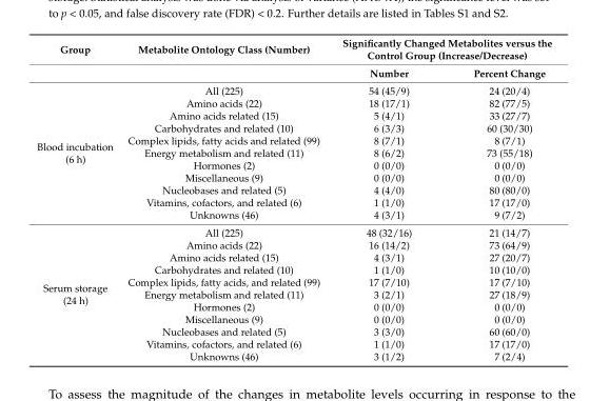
<table><thead><tr><td rowspan="2">Group</td><td rowspan="2">Metabolite Ontology Class (Number)</td><td colspan="2">Significantly Changed Metabolites versus the Control Group (Increase/Decrease)</td></tr><tr><td>Number</td><td>Percent Change</td></tr></thead><tbody><tr><td rowspan="11">Blood incubation (6 h)</td><td>All (225)</td><td>54 (45/9)</td><td>24 (20/4)</td></tr><tr><td>Amino acids (22)</td><td>18 (17/1)</td><td>82 (77/5)</td></tr><tr><td>Amino acids related (15)</td><td>5 (4/1)</td><td>33 (27/7)</td></tr><tr><td>Carbohydrates and related (10)</td><td>6 (3/3)</td><td>60 (30/30)</td></tr><tr><td>Complex lipids, fatty acids and related (99)</td><td>8 (7/1)</td><td>8 (7/1)</td></tr><tr><td>Energy metabolism and related (11)</td><td>8 (6/2)</td><td>73 (55/18)</td></tr><tr><td>Hormones (2)</td><td>0 (0/0)</td><td>0 (0/0)</td></tr><tr><td>Miscellaneous (9)</td><td>0 (0/0)</td><td>0 (0/0)</td></tr><tr><td>Nucleobases and related (5)</td><td>4 (4/0)</td><td>80 (80/0)</td></tr><tr><td>Vitamins, cofactors, and related (6)</td><td>1 (1/0)</td><td>17 (17/0)</td></tr><tr><td>Unknowns (46)</td><td>4 (3/1)</td><td>9 (7/2)</td></tr><tr><td rowspan="11">Serum storage (24 h)</td><td>All (225)</td><td>48 (32/16)</td><td>21 (14/7)</td></tr><tr><td>Amino acids (22)</td><td>16 (14/2)</td><td>73 (64/9)</td></tr><tr><td>Amino acids related (15)</td><td>4 (3/1)</td><td>27 (20/7)</td></tr><tr><td>Carbohydrates and related (10)</td><td>1 (1/0)</td><td>10 (10/0)</td></tr><tr><td>Complex lipids, fatty acids, and related (99)</td><td>17 (7/10)</td><td>17 (7/10)</td></tr><tr><td>Energy metabolism and related (11)</td><td>3 (2/1)</td><td>27 (18/9)</td></tr><tr><td>Hormones (2)</td><td>0 (0/0)</td><td>0 (0/0)</td></tr><tr><td>Miscellaneous (9)</td><td>0 (0/0)</td><td>0 (0/0)</td></tr><tr><td>Nucleobases and related (5)</td><td>3 (3/0)</td><td>60 (60/0)</td></tr><tr><td>Vitamins, cofactors, and related (6)</td><td>1 (1/0)</td><td>17 (17/0)</td></tr><tr><td>Unknowns (46)</td><td>3 (1/2)</td><td>7 (2/4)</td></tr></tbody></table>